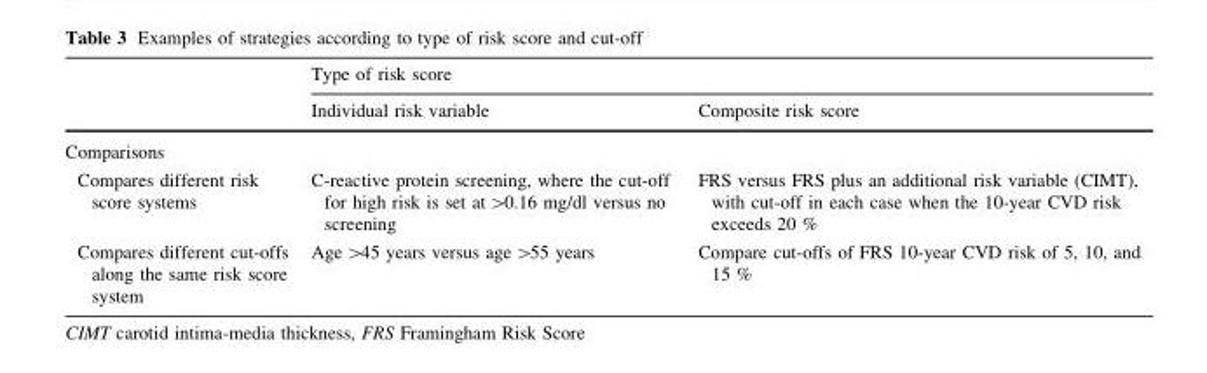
<table><thead><tr><td rowspan="2"></td><td colspan="2">Type of risk score</td></tr><tr><td>Individual risk variable</td><td>Composite risk score</td></tr></thead><tbody><tr><td colspan="3">Comparisons</td></tr><tr><td>Compares different risk score systems</td><td>C-reactive protein screening, where the cut-off for high risk is set at &gt;0.16 mg/dl versus no screening</td><td>FRS versus FRS plus an additional risk variable (CIMT), with cut-off in each case when the 10-year CVD risk exceeds 20 %</td></tr><tr><td>Compares different cut-offs along the same risk score system</td><td>Age &gt;45 years versus age &gt;55 years</td><td>Compare cut-offs of FRS 10-year CVD risk of 5, 10, and 15 %</td></tr></tbody></table>